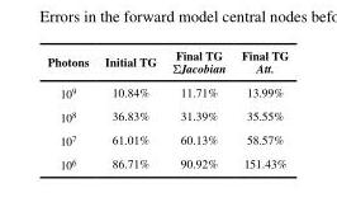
<table><thead><tr><td>Photons</td><td>Initial TG</td><td>Final TG ΣJacobian</td><td>Final TG Att.</td></tr></thead><tbody><tr><td>10<sup>9</sup></td><td>10.84%</td><td>11.71%</td><td>13.99%</td></tr><tr><td>10<sup>8</sup></td><td>36.83%</td><td>31.39%</td><td>35.55%</td></tr><tr><td>10<sup>7</sup></td><td>61.01%</td><td>60.13%</td><td>58.57%</td></tr><tr><td>10<sup>6</sup></td><td>86.71%</td><td>90.92%</td><td>151.43%</td></tr></tbody></table>